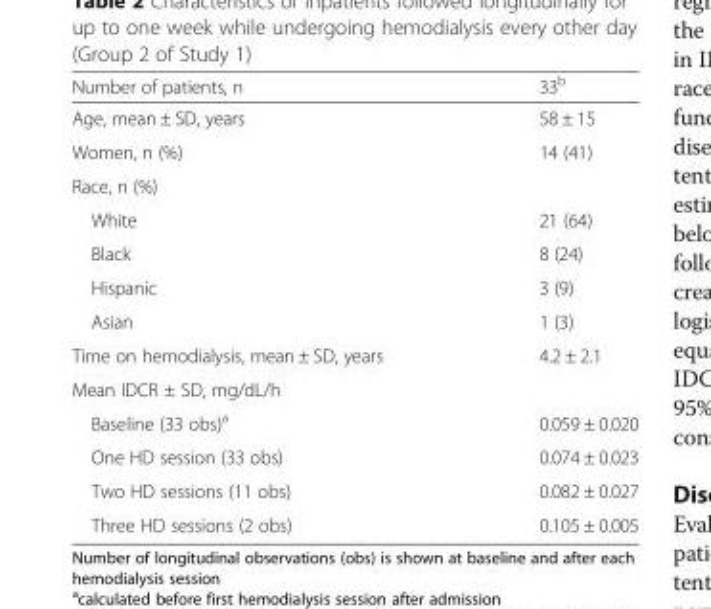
<table><thead><tr><td>Number of patients, n</td><td>33<sup>b</sup></td></tr></thead><tbody><tr><td>Age, mean ± SD, years</td><td>58 ± 15</td></tr><tr><td>Women, n (%)</td><td>14 (41)</td></tr><tr><td colspan="2">Race, n (%)</td></tr><tr><td>White</td><td>21 (64)</td></tr><tr><td>Black</td><td>8 (24)</td></tr><tr><td>Hispanic</td><td>3 (9)</td></tr><tr><td>Asian</td><td>1 (3)</td></tr><tr><td>Time on hemodialysis, mean ± SD, years</td><td>4.2 ± 2.1</td></tr><tr><td colspan="2">Mean IDCR ± SD, mg/dL/h</td></tr><tr><td>Baseline (33 obs)<sup>a</sup></td><td>0.059 ± 0.020</td></tr><tr><td>One HD session (33 obs)</td><td>0.074 ± 0.023</td></tr><tr><td>Two HD sessions (11 obs)</td><td>0.082 ± 0.027</td></tr><tr><td>Three HD sessions (2 obs)</td><td>0.105 ± 0.005</td></tr></tbody></table>